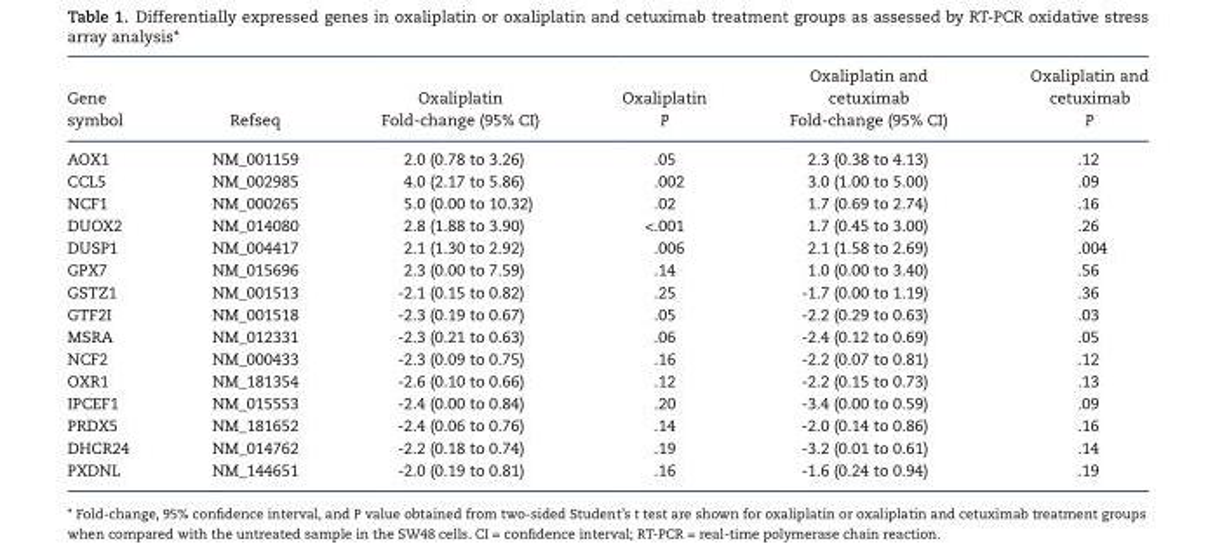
<table><thead><tr><td>Gene symbol</td><td>Refseq</td><td>Oxaliplatin Fold-change (95% CI)</td><td>Oxaliplatin P</td><td>Oxaliplatin and cetuximab Fold-change (95% CI)</td><td>Oxaliplatin and cetuximab P</td></tr></thead><tbody><tr><td>AOX1</td><td>NM_001159</td><td>2.0 (0.78 to 3.26)</td><td>.05</td><td>2.3 (0.38 to 4.13)</td><td>.12</td></tr><tr><td>CCL5</td><td>NM_002985</td><td>4.0 (2.17 to 5.86)</td><td>.002</td><td>3.0 (1.00 to 5.00)</td><td>.09</td></tr><tr><td>NCF1</td><td>NM_000265</td><td>5.0 (0.00 to 10.32)</td><td>.02</td><td>1.7 (0.69 to 2.74)</td><td>.16</td></tr><tr><td>DUOX2</td><td>NM_014080</td><td>2.8 (1.88 to 3.90)</td><td>&lt;.001</td><td>1.7 (0.45 to 3.00)</td><td>.26</td></tr><tr><td>DUSP1</td><td>NM_004417</td><td>2.1 (1.30 to 2.92)</td><td>.006</td><td>2.1 (1.58 to 2.69)</td><td>.004</td></tr><tr><td>GPX7</td><td>NM_015696</td><td>2.3 (0.00 to 7.59)</td><td>.14</td><td>1.0 (0.00 to 3.40)</td><td>.56</td></tr><tr><td>GSTZ1</td><td>NM_001513</td><td>-2.1 (0.15 to 0.82)</td><td>.25</td><td>-1.7 (0.00 to 1.19)</td><td>.36</td></tr><tr><td>GTF2I</td><td>NM_001518</td><td>-2.3 (0.19 to 0.67)</td><td>.05</td><td>-2.2 (0.29 to 0.63)</td><td>.03</td></tr><tr><td>MSRA</td><td>NM_012331</td><td>-2.3 (0.21 to 0.63)</td><td>.06</td><td>-2.4 (0.12 to 0.69)</td><td>.05</td></tr><tr><td>NCF2</td><td>NM_000433</td><td>-2.3 (0.09 to 0.75)</td><td>.16</td><td>-2.2 (0.07 to 0.81)</td><td>.12</td></tr><tr><td>OXR1</td><td>NM_181354</td><td>-2.6 (0.10 to 0.66)</td><td>.12</td><td>-2.2 (0.15 to 0.73)</td><td>.13</td></tr><tr><td>IPCEF1</td><td>NM_015553</td><td>-2.4 (0.00 to 0.84)</td><td>.20</td><td>-3.4 (0.00 to 0.59)</td><td>.09</td></tr><tr><td>PRDX5</td><td>NM_181652</td><td>-2.4 (0.06 to 0.76)</td><td>.14</td><td>-2.0 (0.14 to 0.86)</td><td>.16</td></tr><tr><td>DHCR24</td><td>NM_014762</td><td>-2.2 (0.18 to 0.74)</td><td>.19</td><td>-3.2 (0.01 to 0.61)</td><td>.14</td></tr><tr><td>PXDNL</td><td>NM_144651</td><td>-2.0 (0.19 to 0.81)</td><td>.16</td><td>-1.6 (0.24 to 0.94)</td><td>.19</td></tr></tbody></table>